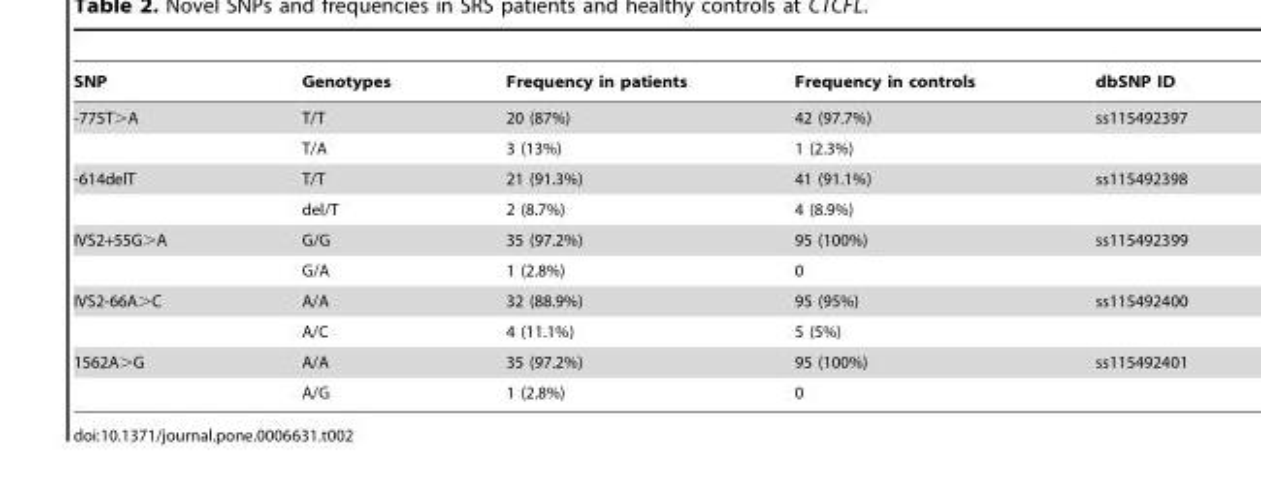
<table><thead><tr><td>SNP</td><td>Genotypes</td><td>Frequency in patients</td><td>Frequency in controls</td><td>dbSNP ID</td></tr></thead><tbody><tr><td rowspan="2">-775T&gt;A</td><td>T/T</td><td>20 (87%)</td><td>42 (97.7%)</td><td>ss115492397</td></tr><tr><td>T/A</td><td>3 (13%)</td><td>1 (2.3%)</td><td></td></tr><tr><td rowspan="2">-614delT</td><td>T/T</td><td>21 (91.3%)</td><td>41 (91.1%)</td><td>ss115492398</td></tr><tr><td>del/T</td><td>2 (8.7%)</td><td>4 (8.9%)</td><td></td></tr><tr><td rowspan="2">IVS2+55G&gt;A</td><td>G/G</td><td>35 (97.2%)</td><td>95 (100%)</td><td>ss115492399</td></tr><tr><td>G/A</td><td>1 (2.8%)</td><td>0</td><td></td></tr><tr><td rowspan="2">IVS2-66A&gt;C</td><td>A/A</td><td>32 (88.9%)</td><td>95 (95%)</td><td>ss115492400</td></tr><tr><td>A/C</td><td>4 (11.1%)</td><td>5 (5%)</td><td></td></tr><tr><td rowspan="2">1562A&gt;G</td><td>A/A</td><td>35 (97.2%)</td><td>95 (100%)</td><td>ss115492401</td></tr><tr><td>A/G</td><td>1 (2.8%)</td><td>0</td><td></td></tr></tbody></table>